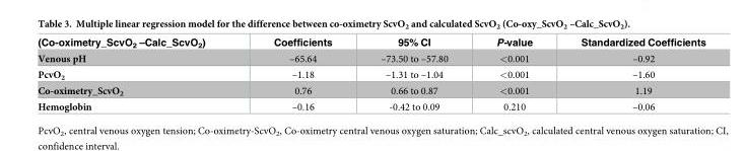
<table><thead><tr><td>(Co-oximetry_ScvO<sub>2</sub> –Calc_ScvO<sub>2</sub>)</td><td>Coefficients</td><td>95% CI</td><td>P-value</td><td>Standardized Coefficients</td></tr></thead><tbody><tr><td>Venous pH</td><td>–65.64</td><td>–73.50 to –57.80</td><td>&lt;0.001</td><td>–0.92</td></tr><tr><td>PcvO<sub>2</sub></td><td>–1.18</td><td>–1.31 to –1.04</td><td>&lt;0.001</td><td>–1.60</td></tr><tr><td>Co-oximetry_ScvO<sub>2</sub></td><td>0.76</td><td>0.66 to 0.87</td><td>&lt;0.001</td><td>1.19</td></tr><tr><td>Hemoglobin</td><td>–0.16</td><td>-0.42 to 0.09</td><td>0.210</td><td>–0.06</td></tr></tbody></table>